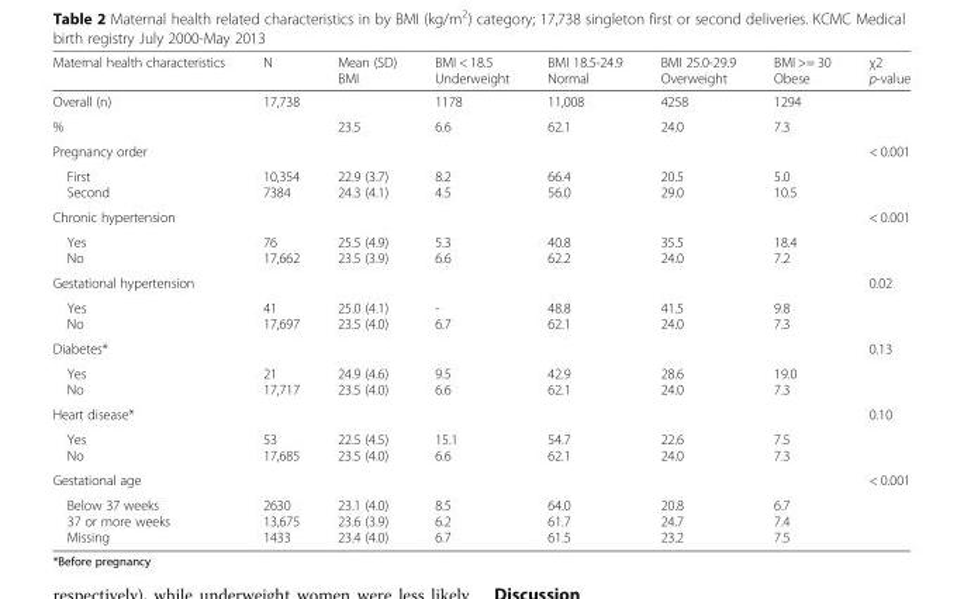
<table><thead><tr><td>Maternal health characteristics</td><td>N</td><td>Mean (SD) BMI</td><td>BMI &lt; 18.5 Underweight</td><td>BMI 18.5-24.9 Normal</td><td>BMI 25.0-29.9 Overweight</td><td>BMI &gt;= 30 Obese</td><td>χ2 p-value</td></tr></thead><tbody><tr><td>Overall (n)</td><td>17,738</td><td></td><td>1178</td><td>11,008</td><td>4258</td><td>1294</td><td></td></tr><tr><td>%</td><td></td><td>23.5</td><td>6.6</td><td>62.1</td><td>24.0</td><td>7.3</td><td></td></tr><tr><td>Pregnancy order</td><td></td><td></td><td></td><td></td><td></td><td></td><td>&lt; 0.001</td></tr><tr><td>First Second</td><td>10,354 7384</td><td>22.9 (3.7) 24.3 (4.1)</td><td>8.2 4.5</td><td>66.4 56.0</td><td>20.5 29.0</td><td>5.0 10.5</td><td></td></tr><tr><td>Chronic hypertension</td><td></td><td></td><td></td><td></td><td></td><td></td><td>&lt; 0.001</td></tr><tr><td>Yes No</td><td>76 17,662</td><td>25.5 (4.9) 23.5 (3.9)</td><td>5.3 6.6</td><td>40.8 62.2</td><td>35.5 24.0</td><td>18.4 7.2</td><td></td></tr><tr><td>Gestational hypertension</td><td></td><td></td><td></td><td></td><td></td><td></td><td>0.02</td></tr><tr><td>Yes No</td><td>41 17,697</td><td>25.0 (4.1) 23.5 (4.0)</td><td>- 6.7</td><td>48.8 62.1</td><td>41.5 24.0</td><td>9.8 7.3</td><td></td></tr><tr><td>Diabetes*</td><td></td><td></td><td></td><td></td><td></td><td></td><td>0.13</td></tr><tr><td>Yes No</td><td>21 17,717</td><td>24.9 (4.6) 23.5 (4.0)</td><td>9.5 6.6</td><td>42.9 62.1</td><td>28.6 24.0</td><td>19.0 7.3</td><td></td></tr><tr><td>Heart disease*</td><td></td><td></td><td></td><td></td><td></td><td></td><td>0.10</td></tr><tr><td>Yes No</td><td>53 17,685</td><td>22.5 (4.5) 23.5 (4.0)</td><td>15.1 6.6</td><td>54.7 62.1</td><td>22.6 24.0</td><td>7.5 7.3</td><td></td></tr><tr><td>Gestational age</td><td></td><td></td><td></td><td></td><td></td><td></td><td>&lt; 0.001</td></tr><tr><td>Below 37 weeks 37 or more weeks Missing</td><td>2630 13,675 1433</td><td>23.1 (4.0) 23.6 (3.9) 23.4 (4.0)</td><td>8.5 6.2 6.7</td><td>64.0 61.7 61.5</td><td>20.8 24.7 23.2</td><td>6.7 7.4 7.5</td><td></td></tr></tbody></table>